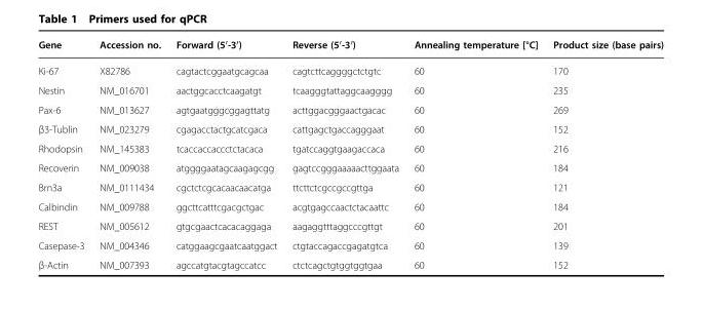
<table><thead><tr><td>Gene</td><td>Accession no.</td><td>Forward (5′-3′)</td><td>Reverse (5′-3′)</td><td>Annealing temperature [°C]</td><td>Product size (base pairs)</td></tr></thead><tbody><tr><td>Ki-67</td><td>X82786</td><td>cagtactcggaatgcagcaa</td><td>cagtcttcaggggctctgtc</td><td>60</td><td>170</td></tr><tr><td>Nestin</td><td>NM_016701</td><td>aactggcacctcaagatgt</td><td>tcaagggtattaggcaagggg</td><td>60</td><td>235</td></tr><tr><td>Pax-6</td><td>NM_013627</td><td>agtgaatgggcggagttatg</td><td>acttggacgggaactgacac</td><td>60</td><td>269</td></tr><tr><td>β3-Tublin</td><td>NM_023279</td><td>cgagacctactgcatcgaca</td><td>cattgagctgaccagggaat</td><td>60</td><td>152</td></tr><tr><td>Rhodopsin</td><td>NM_145383</td><td>tcaccaccaccctctacaca</td><td>tgatccaggtgaagaccaca</td><td>60</td><td>216</td></tr><tr><td>Recoverin</td><td>NM_009038</td><td>atggggaatagcaagagcgg</td><td>gagtccgggaaaaacttggaata</td><td>60</td><td>184</td></tr><tr><td>Brn3a</td><td>NM_0111434</td><td>cgctctcgcacaacaacatga</td><td>ttcttctcgccgccgttga</td><td>60</td><td>121</td></tr><tr><td>Calbindin</td><td>NM_009788</td><td>ggcttcatttcgacgctgac</td><td>acgtgagccaactctacaattc</td><td>60</td><td>184</td></tr><tr><td>REST</td><td>NM_005612</td><td>gtgcgaactcacacaggaga</td><td>aagaggtttaggcccgttgt</td><td>60</td><td>201</td></tr><tr><td>Casepase-3</td><td>NM_004346</td><td>catggaagcgaatcaatggact</td><td>ctgtaccagaccgagatgtca</td><td>60</td><td>139</td></tr><tr><td>β-Actin</td><td>NM_007393</td><td>agccatgtacgtagccatcc</td><td>ctctcagctgtggtggtgaa</td><td>60</td><td>152</td></tr></tbody></table>